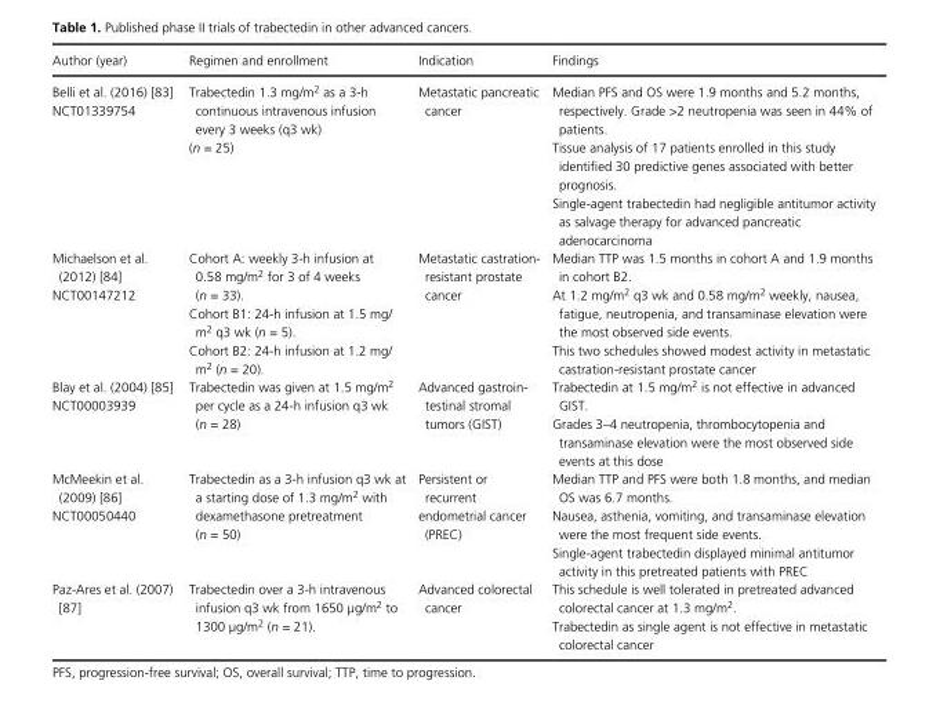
<table><thead><tr><td>Author (year)</td><td>Regimen and enrollment</td><td>Indication</td><td>Findings</td></tr></thead><tbody><tr><td>Belli et al. (2016) [83] NCT01339754</td><td>Trabectedin 1.3 mg/m<sup>2</sup> as a 3- h continuous intravenous infusion every 3 weeks (q3 wk) (n = 25)</td><td>Metastatic pancreatic cancer</td><td>Median PFS and OS were 1.9 months and 5.2 months, respectively. Grade &gt;2 neutropenia was seen in 44% of patients. Tissue analysis of 17 patients enrolled in this study identified 30 predictive genes associated with better prognosis. Single- agent trabectedin had negligible antitumor activity as salvage therapy for advanced pancreatic adenocarcinoma</td></tr><tr><td>Michaelson et al. (2012) [84] NCT00147212</td><td>Cohort A: weekly 3- h infusion at 0.58 mg/m<sup>2</sup> for 3 of 4 weeks (n = 33). Cohort B1: 24- h infusion at 1.5 mg/ m<sup>2</sup> q3 wk (n = 5). Cohort B2: 24- h infusion at 1.2 mg/ m<sup>2</sup> (n = 20).</td><td>Metastatic castration- resistant prostate cancer</td><td>Median TTP was 1.5 months in cohort A and 1.9 months in cohort B2. At 1.2 mg/m<sup>2</sup> q3 wk and 0.58 mg/m<sup>2</sup> weekly, nausea, fatigue, neutropenia, and transaminase elevation were the most observed side events. This two schedules showed modest activity in metastatic castration- resistant prostate cancer</td></tr><tr><td>Blay et al. (2004) [85] NCT00003939</td><td>Trabectedin was given at 1.5 mg/m<sup>2</sup> per cycle as a 24- h infusion q3 wk (n = 28)</td><td>Advanced gastroin- testinal stromal tumors (GIST)</td><td>Trabectedin at 1.5 mg/m<sup>2</sup> is not effective in advanced GIST. Grades 3–4 neutropenia, thrombocytopenia and transaminase elevation were the most observed side events at this dose</td></tr><tr><td>McMeekin et al. (2009) [86] NCT00050440</td><td>Trabectedin as a 3- h infusion q3 wk at a starting dose of 1.3 mg/m<sup>2</sup> with dexamethasone pretreatment (n = 50)</td><td>Persistent or recurrent endometrial cancer (PREC)</td><td>Median TTP and PFS were both 1.8 months, and median OS was 6.7 months. Nausea, asthenia, vomiting, and transaminase elevation were the most frequent side events. Single- agent trabectedin displayed minimal antitumor activity in this pretreated patients with PREC</td></tr><tr><td>Paz- Ares et al. (2007) [87]</td><td>Trabectedin over a 3- h intravenous infusion q3 wk from 1650 μg/m<sup>2</sup> to 1300 μg/m<sup>2</sup> (n = 21).</td><td>Advanced colorectal cancer</td><td>This schedule is well tolerated in pretreated advanced colorectal cancer at 1.3 mg/m<sup>2</sup>. Trabectedin as single agent is not effective in metastatic colorectal cancer</td></tr></tbody></table>